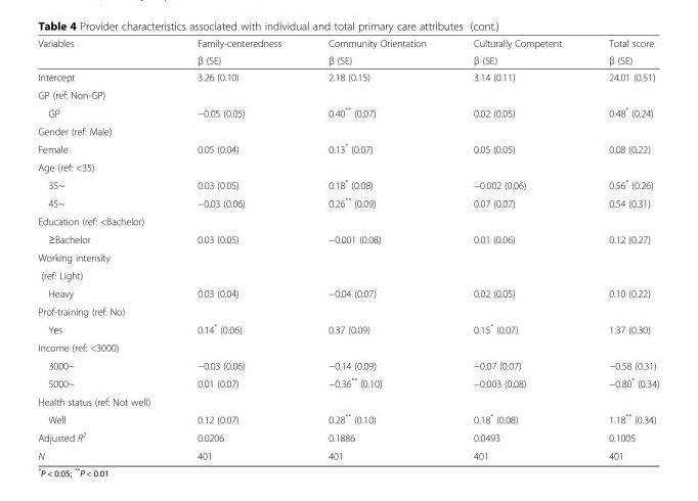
<table><thead><tr><td rowspan="2">Variables</td><td rowspan="2">Family-centeredness β (SE)</td><td rowspan="2">Community Orientation β (SE)</td><td rowspan="2">Culturally Competent β (SE)</td><td rowspan="2">Total score β (SE)</td></tr><tr></tr></thead><tbody><tr><td>Intercept</td><td>3.26 (0.10)</td><td>2.18 (0.15)</td><td>3.14 (0.11)</td><td>24.01 (0.51)</td></tr><tr><td colspan="5">GP (ref: Non-GP)</td></tr><tr><td>GP</td><td>−0.05 (0.05)</td><td>0.40** (0.07)</td><td>0.02 (0.05)</td><td>0.48* (0.24)</td></tr><tr><td colspan="5">Gender (ref: Male)</td></tr><tr><td>Female</td><td>0.05 (0.04)</td><td>0.13* (0.07)</td><td>0.05 (0.05)</td><td>0.08 (0.22)</td></tr><tr><td colspan="5">Age (ref: &lt;35)</td></tr><tr><td>35~</td><td>0.03 (0.05)</td><td>0.18* (0.08)</td><td>−0.002 (0.06)</td><td>0.56* (0.26)</td></tr><tr><td>45~</td><td>−0.03 (0.06)</td><td>0.26** (0.09)</td><td>0.07 (0.07)</td><td>0.54 (0.31)</td></tr><tr><td colspan="5">Education (ref: &lt;Bachelor)</td></tr><tr><td>≥Bachelor</td><td>0.03 (0.05)</td><td>−0.001 (0.08)</td><td>0.01 (0.06)</td><td>0.12 (0.27)</td></tr><tr><td>Working intensity</td><td rowspan="2"></td><td rowspan="2"></td><td rowspan="2"></td><td rowspan="2"></td></tr><tr><td>(ref: Light)</td></tr><tr><td>Heavy</td><td>0.03 (0.04)</td><td>−0.04 (0.07)</td><td>0.02 (0.05)</td><td>0.10 (0.22)</td></tr><tr><td colspan="5">Prof-training (ref: No)</td></tr><tr><td>Yes</td><td>0.14* (0.06)</td><td>0.37 (0.09)</td><td>0.15* (0.07)</td><td>1.37 (0.30)</td></tr><tr><td colspan="5">Income (ref: &lt;3000)</td></tr><tr><td>3000~</td><td>−0.03 (0.06)</td><td>−0.14 (0.09)</td><td>−0.07 (0.07)</td><td>−0.58 (0.31)</td></tr><tr><td>5000~</td><td>0.01 (0.07)</td><td>−0.36** (0.10)</td><td>−0.003 (0.08)</td><td>−0.80* (0.34)</td></tr><tr><td colspan="5">Health status (ref: Not well)</td></tr><tr><td>Well</td><td>0.12 (0.07)</td><td>0.28** (0.10)</td><td>0.18* (0.08)</td><td>1.18** (0.34)</td></tr><tr><td>Adjusted R<sup>2</sup></td><td>0.0206</td><td>0.1886</td><td>0.0493</td><td>0.1005</td></tr><tr><td>N</td><td>401</td><td>401</td><td>401</td><td>401</td></tr></tbody></table>